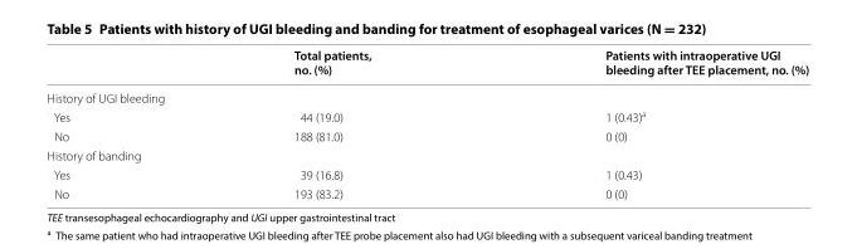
<table><thead><tr><td></td><td>Total patients, no. (%)</td><td>Patients with intraoperative UGI bleeding after TEE placement, no. (%)</td></tr></thead><tbody><tr><td colspan="3">History of UGI bleeding</td></tr><tr><td>Yes</td><td>44 (19.0)</td><td>1 (0.43)<sup>a</sup></td></tr><tr><td>No</td><td>188 (81.0)</td><td>0 (0)</td></tr><tr><td colspan="3">History of banding</td></tr><tr><td>Yes</td><td>39 (16.8)</td><td>1 (0.43)</td></tr><tr><td>No</td><td>193 (83.2)</td><td>0 (0)</td></tr></tbody></table>